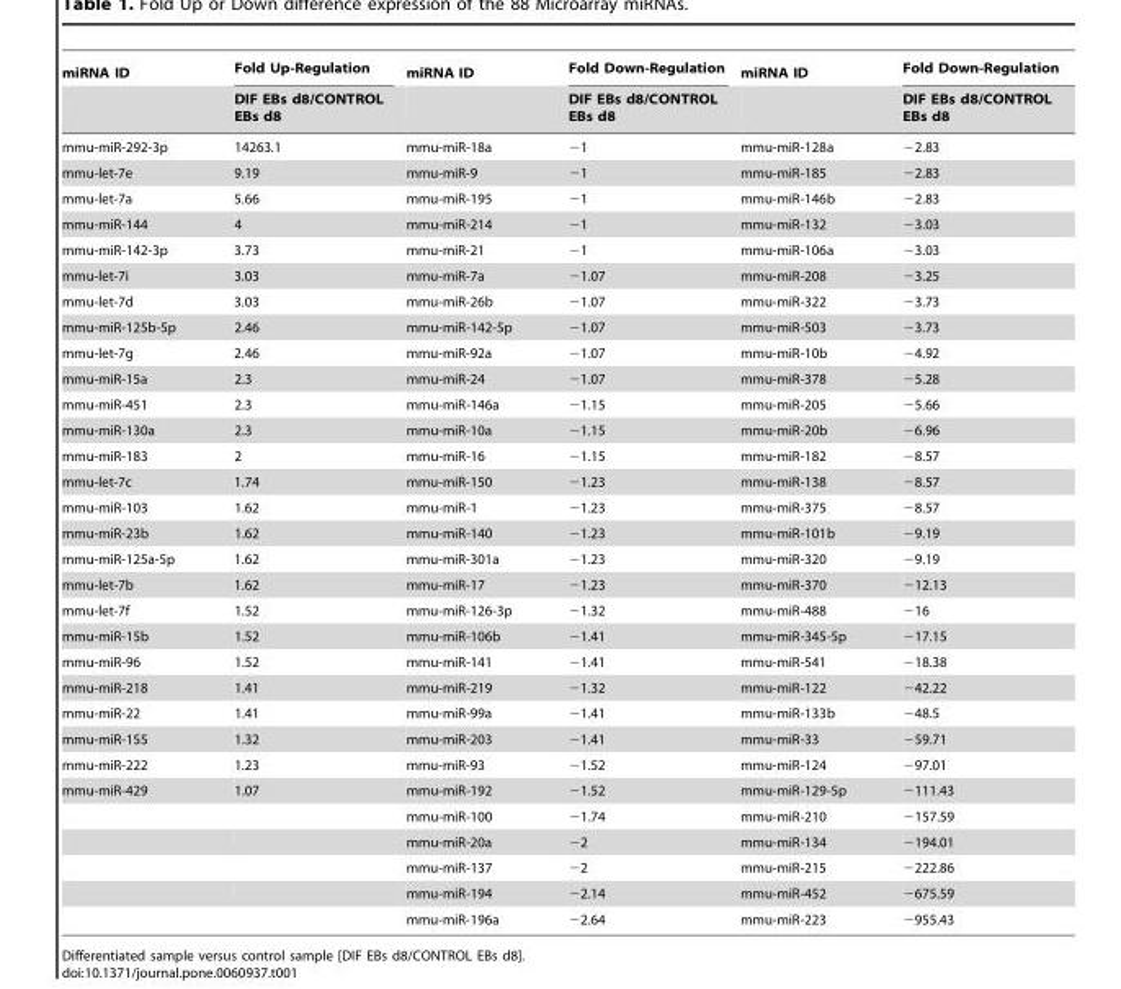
<table><thead><tr><td rowspan="2">miRNA ID</td><td rowspan="2">Fold Up-Regulation DIF EBs d8/CONTROL EBs d8</td><td rowspan="2">miRNA ID</td><td rowspan="2">Fold Down-Regulation DIF EBs d8/CONTROL EBs d8</td><td rowspan="2">miRNA ID</td><td rowspan="2">Fold Down-Regulation DIF EBs d8/CONTROL EBs d8</td></tr><tr></tr></thead><tbody><tr><td>mmu-miR-292-3p</td><td>14263.1</td><td>mmu-miR-18a</td><td>−1</td><td>mmu-miR-128a</td><td>−2.83</td></tr><tr><td>mmu-let-7e</td><td>9.19</td><td>mmu-miR-9</td><td>−1</td><td>mmu-miR-185</td><td>−2.83</td></tr><tr><td>mmu-let-7a</td><td>5.66</td><td>mmu-miR-195</td><td>−1</td><td>mmu-miR-146b</td><td>−2.83</td></tr><tr><td>mmu-miR-144</td><td>4</td><td>mmu-miR-214</td><td>−1</td><td>mmu-miR-132</td><td>−3.03</td></tr><tr><td>mmu-miR-142-3p</td><td>3.73</td><td>mmu-miR-21</td><td>−1</td><td>mmu-miR-106a</td><td>−3.03</td></tr><tr><td>mmu-let-7i</td><td>3.03</td><td>mmu-miR-7a</td><td>−1.07</td><td>mmu-miR-208</td><td>−3.25</td></tr><tr><td>mmu-let-7d</td><td>3.03</td><td>mmu-miR-26b</td><td>−1.07</td><td>mmu-miR-322</td><td>−3.73</td></tr><tr><td>mmu-miR-125b-5p</td><td>2.46</td><td>mmu-miR-142-5p</td><td>−1.07</td><td>mmu-miR-503</td><td>−3.73</td></tr><tr><td>mmu-let-7g</td><td>2.46</td><td>mmu-miR-92a</td><td>−1.07</td><td>mmu-miR-10b</td><td>−4.92</td></tr><tr><td>mmu-miR-15a</td><td>2.3</td><td>mmu-miR-24</td><td>−1.07</td><td>mmu-miR-378</td><td>−5.28</td></tr><tr><td>mmu-miR-451</td><td>2.3</td><td>mmu-miR-146a</td><td>−1.15</td><td>mmu-miR-205</td><td>−5.66</td></tr><tr><td>mmu-miR-130a</td><td>2.3</td><td>mmu-miR-10a</td><td>−1.15</td><td>mmu-miR-20b</td><td>−6.96</td></tr><tr><td>mmu-miR-183</td><td>2</td><td>mmu-miR-16</td><td>−1.15</td><td>mmu-miR-182</td><td>−8.57</td></tr><tr><td>mmu-let-7c</td><td>1.74</td><td>mmu-miR-150</td><td>−1.23</td><td>mmu-miR-138</td><td>−8.57</td></tr><tr><td>mmu-miR-103</td><td>1.62</td><td>mmu-miR-1</td><td>−1.23</td><td>mmu-miR-375</td><td>−8.57</td></tr><tr><td>mmu-miR-23b</td><td>1.62</td><td>mmu-miR-140</td><td>−1.23</td><td>mmu-miR-101b</td><td>−9.19</td></tr><tr><td>mmu-miR-125a-5p</td><td>1.62</td><td>mmu-miR-301a</td><td>−1.23</td><td>mmu-miR-320</td><td>−9.19</td></tr><tr><td>mmu-let-7b</td><td>1.62</td><td>mmu-miR-17</td><td>−1.23</td><td>mmu-miR-370</td><td>−12.13</td></tr><tr><td>mmu-let-7f</td><td>1.52</td><td>mmu-miR-126-3p</td><td>−1.32</td><td>mmu-miR-488</td><td>−16</td></tr><tr><td>mmu-miR-15b</td><td>1.52</td><td>mmu-miR-106b</td><td>−1.41</td><td>mmu-miR-345-5p</td><td>−17.15</td></tr><tr><td>mmu-miR-96</td><td>1.52</td><td>mmu-miR-141</td><td>−1.41</td><td>mmu-miR-541</td><td>−18.38</td></tr><tr><td>mmu-miR-218</td><td>1.41</td><td>mmu-miR-219</td><td>−1.32</td><td>mmu-miR-122</td><td>−42.22</td></tr><tr><td>mmu-miR-22</td><td>1.41</td><td>mmu-miR-99a</td><td>−1.41</td><td>mmu-miR-133b</td><td>−48.5</td></tr><tr><td>mmu-miR-155</td><td>1.32</td><td>mmu-miR-203</td><td>−1.41</td><td>mmu-miR-33</td><td>−59.71</td></tr><tr><td>mmu-miR-222</td><td>1.23</td><td>mmu-miR-93</td><td>−1.52</td><td>mmu-miR-124</td><td>−97.01</td></tr><tr><td rowspan="6">mmu-miR-429</td><td>1.07</td><td>mmu-miR-192</td><td>−1.52</td><td>mmu-miR-129-5p</td><td>−111.43</td></tr><tr><td></td><td>mmu-miR-100</td><td>−1.74</td><td>mmu-miR-210</td><td>−157.59</td></tr><tr><td></td><td>mmu-miR-20a</td><td>−2</td><td>mmu-miR-134</td><td>−194.01</td></tr><tr><td></td><td>mmu-miR-137</td><td>−2</td><td>mmu-miR-215</td><td>−222.86</td></tr><tr><td></td><td>mmu-miR-194</td><td>−2.14</td><td>mmu-miR-452</td><td>−675.59</td></tr><tr><td></td><td>mmu-miR-196a</td><td>−2.64</td><td>mmu-miR-223</td><td>−955.43</td></tr></tbody></table>